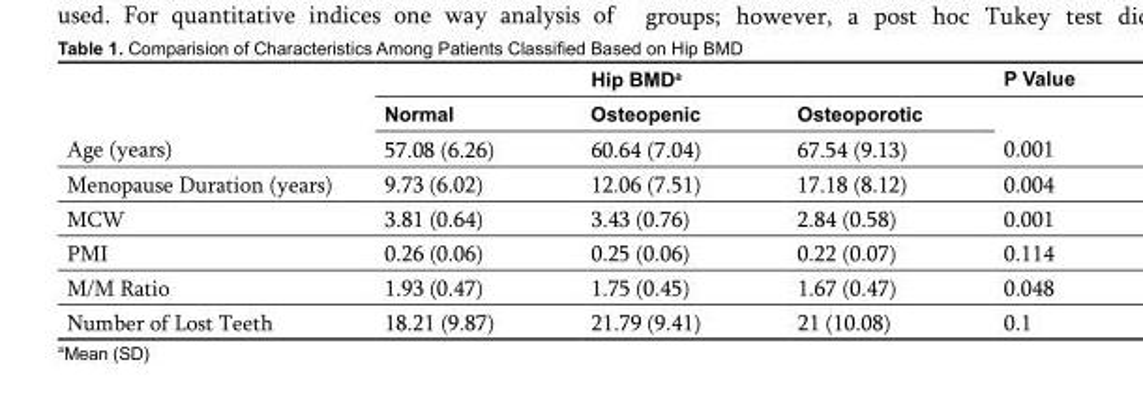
<table><thead><tr><td rowspan="2"></td><td colspan="3">Hip BMD<sup>a</sup></td><td rowspan="2">P Value</td></tr><tr><td>Normal</td><td>Osteopenic</td><td>Osteoporotic</td></tr></thead><tbody><tr><td>Age (years)</td><td>57.08 (6.26)</td><td>60.64 (7.04)</td><td>67.54 (9.13)</td><td>0.001</td></tr><tr><td>Menopause Duration (years)</td><td>9.73 (6.02)</td><td>12.06 (7.51)</td><td>17.18 (8.12)</td><td>0.004</td></tr><tr><td>MCW</td><td>3.81 (0.64)</td><td>3.43 (0.76)</td><td>2.84 (0.58)</td><td>0.001</td></tr><tr><td>PMI</td><td>0.26 (0.06)</td><td>0.25 (0.06)</td><td>0.22 (0.07)</td><td>0.114</td></tr><tr><td>M/M Ratio</td><td>1.93 (0.47)</td><td>1.75 (0.45)</td><td>1.67 (0.47)</td><td>0.048</td></tr><tr><td>Number of Lost Teeth</td><td>18.21 (9.87)</td><td>21.79 (9.41)</td><td>21 (10.08)</td><td>0.1</td></tr></tbody></table>